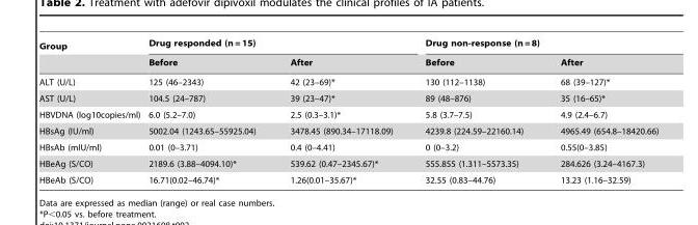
<table><thead><tr><td rowspan="2">Group</td><td colspan="2">Drug responded (n = 15)</td><td colspan="2">Drug non-response (n = 8)</td></tr><tr><td>Before</td><td>After</td><td>Before</td><td>After</td></tr></thead><tbody><tr><td>ALT (U/L)</td><td>125 (46–2343)</td><td>42 (23–69)*</td><td>130 (112–1138)</td><td>68 (39–127)*</td></tr><tr><td>AST (U/L)</td><td>104.5 (24–787)</td><td>39 (23–47)*</td><td>89 (48–876)</td><td>35 (16–65)*</td></tr><tr><td>HBVDNA (log10copies/ml)</td><td>6.0 (5.2–7.0)</td><td>2.5 (0.3–3.1)*</td><td>5.8 (3.7–7.5)</td><td>4.9 (2.4–6.7)</td></tr><tr><td>HBsAg (IU/ml)</td><td>5002.04 (1243.65–55925.04)</td><td>3478.45 (890.34–17118.09)</td><td>4239.8 (224.59–22160.14)</td><td>4965.49 (654.8–18420.66)</td></tr><tr><td>HBsAb (mIU/ml)</td><td>0.01 (0–3.71)</td><td>0.4 (0–4.41)</td><td>0 (0–3.2)</td><td>0.55(0–3.85)</td></tr><tr><td>HBeAg (S/CO)</td><td>2189.6 (3.88–4094.10)*</td><td>539.62 (0.47–2345.67)*</td><td>555.855 (1.311–5573.35)</td><td>284.626 (3.24–4167.3)</td></tr><tr><td>HBeAb (S/CO)</td><td>16.71(0.02–46.74)*</td><td>1.26(0.01–35.67)*</td><td>32.55 (0.83–44.76)</td><td>13.23 (1.16–32.59)</td></tr></tbody></table>